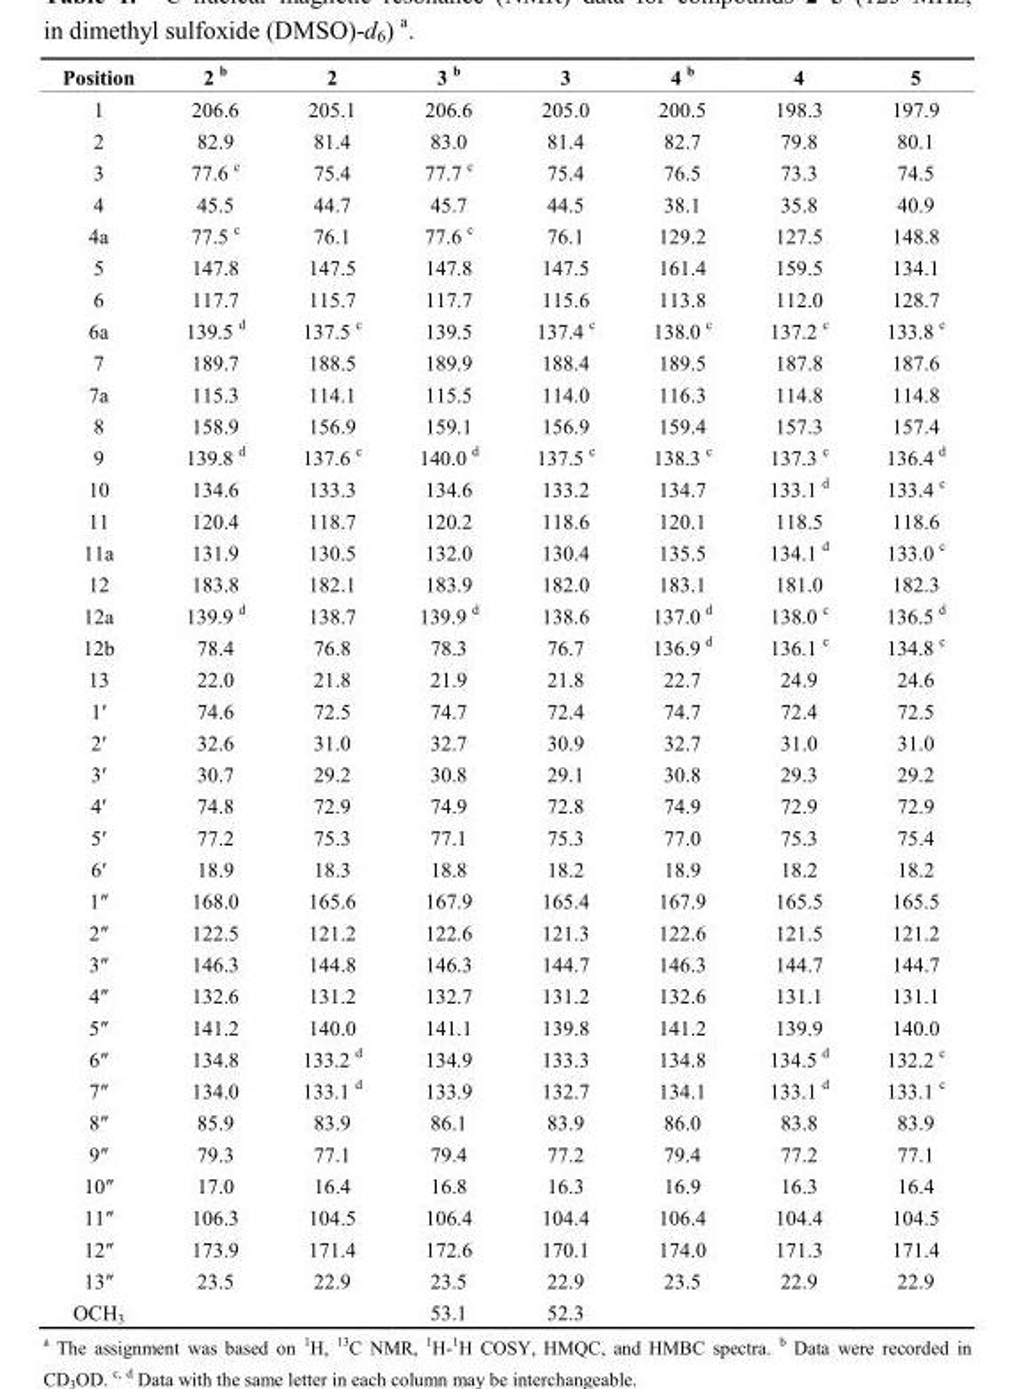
<table><thead><tr><td>Position</td><td>2 <sup>b</sup></td><td>2</td><td>3 <sup>b</sup></td><td>3</td><td>4 <sup>b</sup></td><td>4</td><td>5</td></tr></thead><tbody><tr><td>1</td><td>206.6</td><td>205.1</td><td>206.6</td><td>205.0</td><td>200.5</td><td>198.3</td><td>197.9</td></tr><tr><td>2</td><td>82.9</td><td>81.4</td><td>83.0</td><td>81.4</td><td>82.7</td><td>79.8</td><td>80.1</td></tr><tr><td>3</td><td>77.6 <sup>c</sup></td><td>75.4</td><td>77.7 <sup>c</sup></td><td>75.4</td><td>76.5</td><td>73.3</td><td>74.5</td></tr><tr><td>4</td><td>45.5</td><td>44.7</td><td>45.7</td><td>44.5</td><td>38.1</td><td>35.8</td><td>40.9</td></tr><tr><td>4a</td><td>77.5 <sup>c</sup></td><td>76.1</td><td>77.6 <sup>c</sup></td><td>76.1</td><td>129.2</td><td>127.5</td><td>148.8</td></tr><tr><td>5</td><td>147.8</td><td>147.5</td><td>147.8</td><td>147.5</td><td>161.4</td><td>159.5</td><td>134.1</td></tr><tr><td>6</td><td>117.7</td><td>115.7</td><td>117.7</td><td>115.6</td><td>113.8</td><td>112.0</td><td>128.7</td></tr><tr><td>6a</td><td>139.5 <sup>d</sup></td><td>137.5 <sup>c</sup></td><td>139.5</td><td>137.4 <sup>c</sup></td><td>138.0 <sup>c</sup></td><td>137.2 <sup>c</sup></td><td>133.8 <sup>c</sup></td></tr><tr><td>7</td><td>189.7</td><td>188.5</td><td>189.9</td><td>188.4</td><td>189.5</td><td>187.8</td><td>187.6</td></tr><tr><td>7a</td><td>115.3</td><td>114.1</td><td>115.5</td><td>114.0</td><td>116.3</td><td>114.8</td><td>114.8</td></tr><tr><td>8</td><td>158.9</td><td>156.9</td><td>159.1</td><td>156.9</td><td>159.4</td><td>157.3</td><td>157.4</td></tr><tr><td>9</td><td>139.8 <sup>d</sup></td><td>137.6 <sup>c</sup></td><td>140.0 <sup>d</sup></td><td>137.5 <sup>c</sup></td><td>138.3 <sup>c</sup></td><td>137.3 <sup>c</sup></td><td>136.4 <sup>d</sup></td></tr><tr><td>10</td><td>134.6</td><td>133.3</td><td>134.6</td><td>133.2</td><td>134.7</td><td>133.1 <sup>d</sup></td><td>133.4 <sup>c</sup></td></tr><tr><td>11</td><td>120.4</td><td>118.7</td><td>120.2</td><td>118.6</td><td>120.1</td><td>118.5</td><td>118.6</td></tr><tr><td>11a</td><td>131.9</td><td>130.5</td><td>132.0</td><td>130.4</td><td>135.5</td><td>134.1 <sup>d</sup></td><td>133.0 <sup>c</sup></td></tr><tr><td>12</td><td>183.8</td><td>182.1</td><td>183.9</td><td>182.0</td><td>183.1</td><td>181.0</td><td>182.3</td></tr><tr><td>12a</td><td>139.9 <sup>d</sup></td><td>138.7</td><td>139.9 <sup>d</sup></td><td>138.6</td><td>137.0 <sup>d</sup></td><td>138.0 <sup>c</sup></td><td>136.5 <sup>d</sup></td></tr><tr><td>12b</td><td>78.4</td><td>76.8</td><td>78.3</td><td>76.7</td><td>136.9 <sup>d</sup></td><td>136.1 <sup>c</sup></td><td>134.8 <sup>c</sup></td></tr><tr><td>13</td><td>22.0</td><td>21.8</td><td>21.9</td><td>21.8</td><td>22.7</td><td>24.9</td><td>24.6</td></tr><tr><td>1′</td><td>74.6</td><td>72.5</td><td>74.7</td><td>72.4</td><td>74.7</td><td>72.4</td><td>72.5</td></tr><tr><td>2′</td><td>32.6</td><td>31.0</td><td>32.7</td><td>30.9</td><td>32.7</td><td>31.0</td><td>31.0</td></tr><tr><td>3′</td><td>30.7</td><td>29.2</td><td>30.8</td><td>29.1</td><td>30.8</td><td>29.3</td><td>29.2</td></tr><tr><td>4′</td><td>74.8</td><td>72.9</td><td>74.9</td><td>72.8</td><td>74.9</td><td>72.9</td><td>72.9</td></tr><tr><td>5′</td><td>77.2</td><td>75.3</td><td>77.1</td><td>75.3</td><td>77.0</td><td>75.3</td><td>75.4</td></tr><tr><td>6′</td><td>18.9</td><td>18.3</td><td>18.8</td><td>18.2</td><td>18.9</td><td>18.2</td><td>18.2</td></tr><tr><td>1″</td><td>168.0</td><td>165.6</td><td>167.9</td><td>165.4</td><td>167.9</td><td>165.5</td><td>165.5</td></tr><tr><td>2″</td><td>122.5</td><td>121.2</td><td>122.6</td><td>121.3</td><td>122.6</td><td>121.5</td><td>121.2</td></tr><tr><td>3″</td><td>146.3</td><td>144.8</td><td>146.3</td><td>144.7</td><td>146.3</td><td>144.7</td><td>144.7</td></tr><tr><td>4″</td><td>132.6</td><td>131.2</td><td>132.7</td><td>131.2</td><td>132.6</td><td>131.1</td><td>131.1</td></tr><tr><td>5″</td><td>141.2</td><td>140.0</td><td>141.1</td><td>139.8</td><td>141.2</td><td>139.9</td><td>140.0</td></tr><tr><td>6″</td><td>134.8</td><td>133.2 <sup>d</sup></td><td>134.9</td><td>133.3</td><td>134.8</td><td>134.5 <sup>d</sup></td><td>132.2 <sup>c</sup></td></tr><tr><td>7″</td><td>134.0</td><td>133.1 <sup>d</sup></td><td>133.9</td><td>132.7</td><td>134.1</td><td>133.1 <sup>d</sup></td><td>133.1 <sup>c</sup></td></tr><tr><td>8″</td><td>85.9</td><td>83.9</td><td>86.1</td><td>83.9</td><td>86.0</td><td>83.8</td><td>83.9</td></tr><tr><td>9″</td><td>79.3</td><td>77.1</td><td>79.4</td><td>77.2</td><td>79.4</td><td>77.2</td><td>77.1</td></tr><tr><td>10″</td><td>17.0</td><td>16.4</td><td>16.8</td><td>16.3</td><td>16.9</td><td>16.3</td><td>16.4</td></tr><tr><td>11″</td><td>106.3</td><td>104.5</td><td>106.4</td><td>104.4</td><td>106.4</td><td>104.4</td><td>104.5</td></tr><tr><td>12″</td><td>173.9</td><td>171.4</td><td>172.6</td><td>170.1</td><td>174.0</td><td>171.3</td><td>171.4</td></tr><tr><td>13″</td><td>23.5</td><td>22.9</td><td>23.5</td><td>22.9</td><td>23.5</td><td>22.9</td><td>22.9</td></tr><tr><td>OCH<sub>3</sub></td><td></td><td></td><td>53.1</td><td>52.3</td><td></td><td></td><td></td></tr></tbody></table>